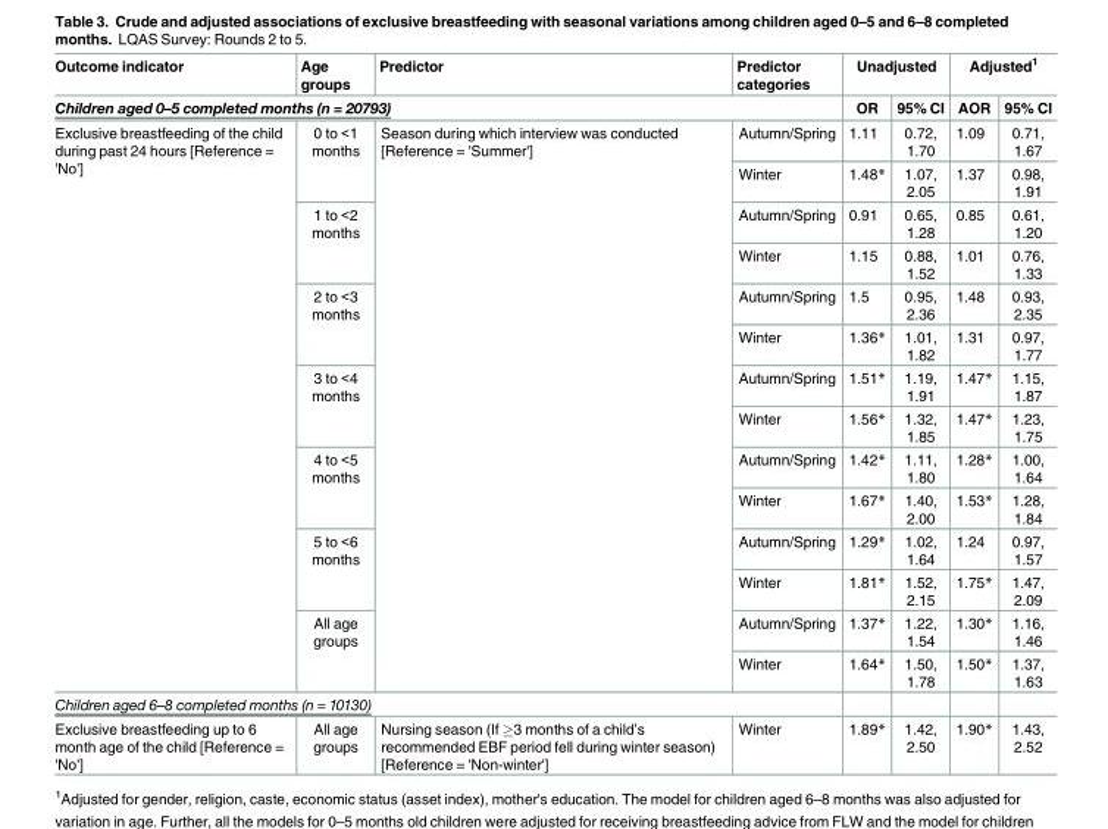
<table><thead><tr><td>Outcome indicator</td><td>Age groups</td><td>Predictor</td><td>Predictor categories</td><td colspan="2">Unadjusted</td><td colspan="2">Adjusted<sup>1</sup></td></tr><tr><td colspan="4">Children aged 0–5 completed months (n = 20793)</td><td>OR</td><td>95% CI</td><td>AOR</td><td>95% CI</td></tr></thead><tbody><tr><td rowspan="14">Exclusive breastfeeding of the child during past 24 hours [Reference = &#x27;No&#x27;]</td><td rowspan="2">0 to &lt;1 months</td><td rowspan="14">Season during which interview was conducted [Reference = &#x27;Summer&#x27;]</td><td>Autumn/Spring</td><td>1.11</td><td>0.72, 1.70</td><td>1.09</td><td>0.71, 1.67</td></tr><tr><td>Winter</td><td>1.48*</td><td>1.07, 2.05</td><td>1.37</td><td>0.98, 1.91</td></tr><tr><td rowspan="2">1 to &lt;2 months</td><td>Autumn/Spring</td><td>0.91</td><td>0.65, 1.28</td><td>0.85</td><td>0.61, 1.20</td></tr><tr><td>Winter</td><td>1.15</td><td>0.88, 1.52</td><td>1.01</td><td>0.76, 1.33</td></tr><tr><td rowspan="2">2 to &lt;3 months</td><td>Autumn/Spring</td><td>1.5</td><td>0.95, 2.36</td><td>1.48</td><td>0.93, 2.35</td></tr><tr><td>Winter</td><td>1.36*</td><td>1.01, 1.82</td><td>1.31</td><td>0.97, 1.77</td></tr><tr><td rowspan="2">3 to &lt;4 months</td><td>Autumn/Spring</td><td>1.51*</td><td>1.19, 1.91</td><td>1.47*</td><td>1.15, 1.87</td></tr><tr><td>Winter</td><td>1.56*</td><td>1.32, 1.85</td><td>1.47*</td><td>1.23, 1.75</td></tr><tr><td rowspan="2">4 to &lt;5 months</td><td>Autumn/Spring</td><td>1.42*</td><td>1.11, 1.80</td><td>1.28*</td><td>1.00, 1.64</td></tr><tr><td>Winter</td><td>1.67*</td><td>1.40, 2.00</td><td>1.53*</td><td>1.28, 1.84</td></tr><tr><td rowspan="2">5 to &lt;6 months</td><td>Autumn/Spring</td><td>1.29*</td><td>1.02, 1.64</td><td>1.24</td><td>0.97, 1.57</td></tr><tr><td>Winter</td><td>1.81*</td><td>1.52, 2.15</td><td>1.75*</td><td>1.47, 2.09</td></tr><tr><td rowspan="2">All age groups</td><td>Autumn/Spring</td><td>1.37*</td><td>1.22, 1.54</td><td>1.30*</td><td>1.16, 1.46</td></tr><tr><td>Winter</td><td>1.64*</td><td>1.50, 1.78</td><td>1.50*</td><td>1.37, 1.63</td></tr><tr><td colspan="8">Children aged 6–8 completed months (n = 10130)</td></tr><tr><td>Exclusive breastfeeding up to 6 month age of the child [Reference = &#x27;No&#x27;]</td><td>All age groups</td><td>Nursing season (If ≥3 months of a child’s recommended EBF period fell during winter season) [Reference = &#x27;Non-winter&#x27;]</td><td>Winter</td><td>1.89*</td><td>1.42, 2.50</td><td>1.90*</td><td>1.43, 2.52</td></tr></tbody></table>